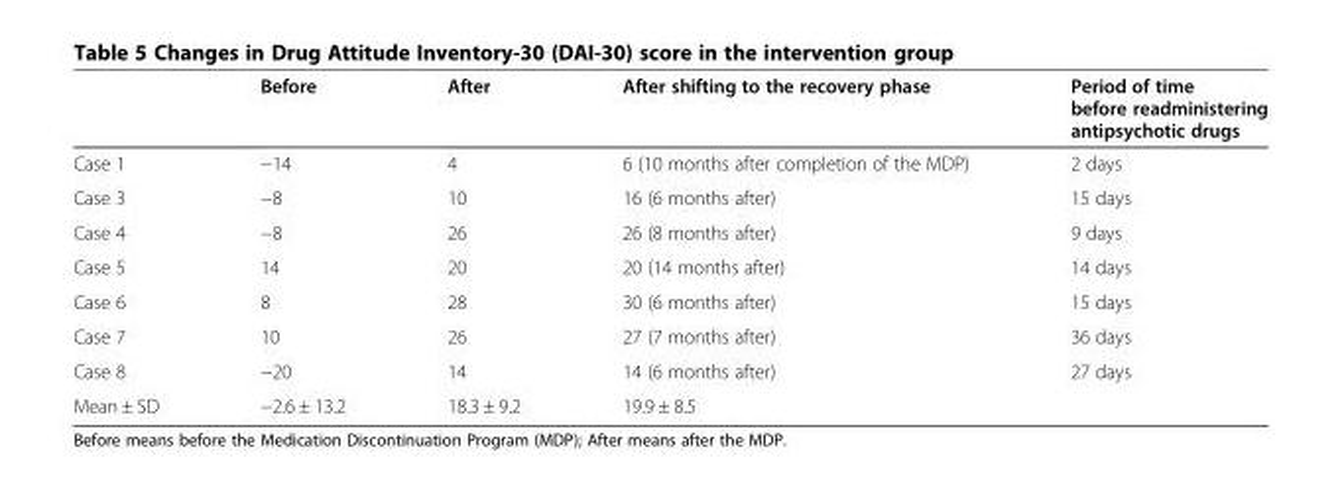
<table><thead><tr><td></td><td>Before</td><td>After</td><td>After shifting to the recovery phase</td><td>Period of time before readministering antipsychotic drugs</td></tr></thead><tbody><tr><td>Case 1</td><td>−14</td><td>4</td><td>6 (10 months after completion of the MDP)</td><td>2 days</td></tr><tr><td>Case 3</td><td>−8</td><td>10</td><td>16 (6 months after)</td><td>15 days</td></tr><tr><td>Case 4</td><td>−8</td><td>26</td><td>26 (8 months after)</td><td>9 days</td></tr><tr><td>Case 5</td><td>14</td><td>20</td><td>20 (14 months after)</td><td>14 days</td></tr><tr><td>Case 6</td><td>8</td><td>28</td><td>30 (6 months after)</td><td>15 days</td></tr><tr><td>Case 7</td><td>10</td><td>26</td><td>27 (7 months after)</td><td>36 days</td></tr><tr><td>Case 8</td><td>−20</td><td>14</td><td>14 (6 months after)</td><td>27 days</td></tr><tr><td>Mean ± SD</td><td>−2.6 ± 13.2</td><td>18.3 ± 9.2</td><td>19.9 ± 8.5</td><td></td></tr></tbody></table>